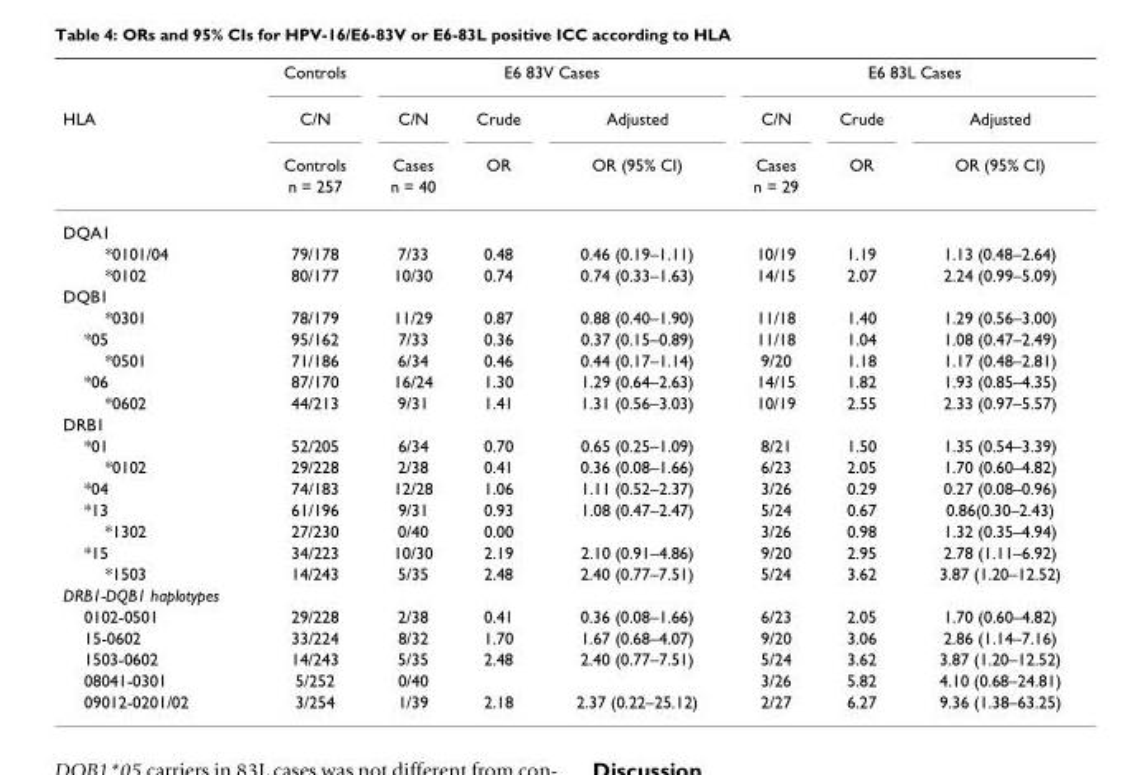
<table><thead><tr><td rowspan="4">HLA</td><td rowspan="4">Controls C/N Controls n = 257</td><td colspan="3">E6 83V Cases</td><td colspan="3">E6 83L Cases</td></tr><tr><td rowspan="3">C/N Cases n = 40</td><td rowspan="3">Crude OR</td><td rowspan="3">Adjusted OR (95% CI)</td><td rowspan="3">C/N Cases n = 29</td><td rowspan="3">Crude OR</td><td rowspan="3">Adjusted OR (95% CI)</td></tr><tr></tr><tr></tr></thead><tbody><tr><td colspan="8">DQA1</td></tr><tr><td>*0101/04</td><td>79/178</td><td>7/33</td><td>0.48</td><td>0.46 (0.19–1.11)</td><td>10/19</td><td>1.19</td><td>1.13 (0.48–2.64)</td></tr><tr><td>*0102</td><td>80/177</td><td>10/30</td><td>0.74</td><td>0.74 (0.33–1.63)</td><td>14/15</td><td>2.07</td><td>2.24 (0.99–5.09)</td></tr><tr><td colspan="8">DQB1</td></tr><tr><td>*0301</td><td>78/179</td><td>11/29</td><td>0.87</td><td>0.88 (0.40–1.90)</td><td>11/18</td><td>1.40</td><td>1.29 (0.56–3.00)</td></tr><tr><td>*05</td><td>95/162</td><td>7/33</td><td>0.36</td><td>0.37 (0.15–0.89)</td><td>11/18</td><td>1.04</td><td>1.08 (0.47–2.49)</td></tr><tr><td>*0501</td><td>71/186</td><td>6/34</td><td>0.46</td><td>0.44 (0.17–1.14)</td><td>9/20</td><td>1.18</td><td>1.17 (0.48–2.81)</td></tr><tr><td>*06</td><td>87/170</td><td>16/24</td><td>1.30</td><td>1.29 (0.64–2.63)</td><td>14/15</td><td>1.82</td><td>1.93 (0.85–4.35)</td></tr><tr><td>*0602</td><td>44/213</td><td>9/31</td><td>1.41</td><td>1.31 (0.56–3.03)</td><td>10/19</td><td>2.55</td><td>2.33 (0.97–5.57)</td></tr><tr><td colspan="8">DRB1</td></tr><tr><td>*01</td><td>52/205</td><td>6/34</td><td>0.70</td><td>0.65 (0.25–1.09)</td><td>8/21</td><td>1.50</td><td>1.35 (0.54–3.39)</td></tr><tr><td>*0102</td><td>29/228</td><td>2/38</td><td>0.41</td><td>0.36 (0.08–1.66)</td><td>6/23</td><td>2.05</td><td>1.70 (0.60–4.82)</td></tr><tr><td>*04</td><td>74/183</td><td>12/28</td><td>1.06</td><td>1.11 (0.52–2.37)</td><td>3/26</td><td>0.29</td><td>0.27 (0.08–0.96)</td></tr><tr><td>*13</td><td>61/196</td><td>9/31</td><td>0.93</td><td>1.08 (0.47–2.47)</td><td>5/24</td><td>0.67</td><td>0.86(0.30–2.43)</td></tr><tr><td>*1302</td><td>27/230</td><td>0/40</td><td>0.00</td><td></td><td>3/26</td><td>0.98</td><td>1.32 (0.35–4.94)</td></tr><tr><td>*15</td><td>34/223</td><td>10/30</td><td>2.19</td><td>2.10 (0.91–4.86)</td><td>9/20</td><td>2.95</td><td>2.78 (1.11–6.92)</td></tr><tr><td>*1503</td><td>14/243</td><td>5/35</td><td>2.48</td><td>2.40 (0.77–7.51)</td><td>5/24</td><td>3.62</td><td>3.87 (1.20–12.52)</td></tr><tr><td colspan="8">DRB1-DQB1 haplotypes</td></tr><tr><td>0102-0501</td><td>29/228</td><td>2/38</td><td>0.41</td><td>0.36 (0.08–1.66)</td><td>6/23</td><td>2.05</td><td>1.70 (0.60–4.82)</td></tr><tr><td>15-0602</td><td>33/224</td><td>8/32</td><td>1.70</td><td>1.67 (0.68–4.07)</td><td>9/20</td><td>3.06</td><td>2.86 (1.14–7.16)</td></tr><tr><td>1503-0602</td><td>14/243</td><td>5/35</td><td>2.48</td><td>2.40 (0.77–7.51)</td><td>5/24</td><td>3.62</td><td>3.87 (1.20–12.52)</td></tr><tr><td>08041-0301</td><td>5/252</td><td>0/40</td><td></td><td></td><td>3/26</td><td>5.82</td><td>4.10 (0.68–24.81)</td></tr><tr><td>09012-0201/02</td><td>3/254</td><td>1/39</td><td>2.18</td><td>2.37 (0.22–25.12)</td><td>2/27</td><td>6.27</td><td>9.36 (1.38–63.25)</td></tr></tbody></table>